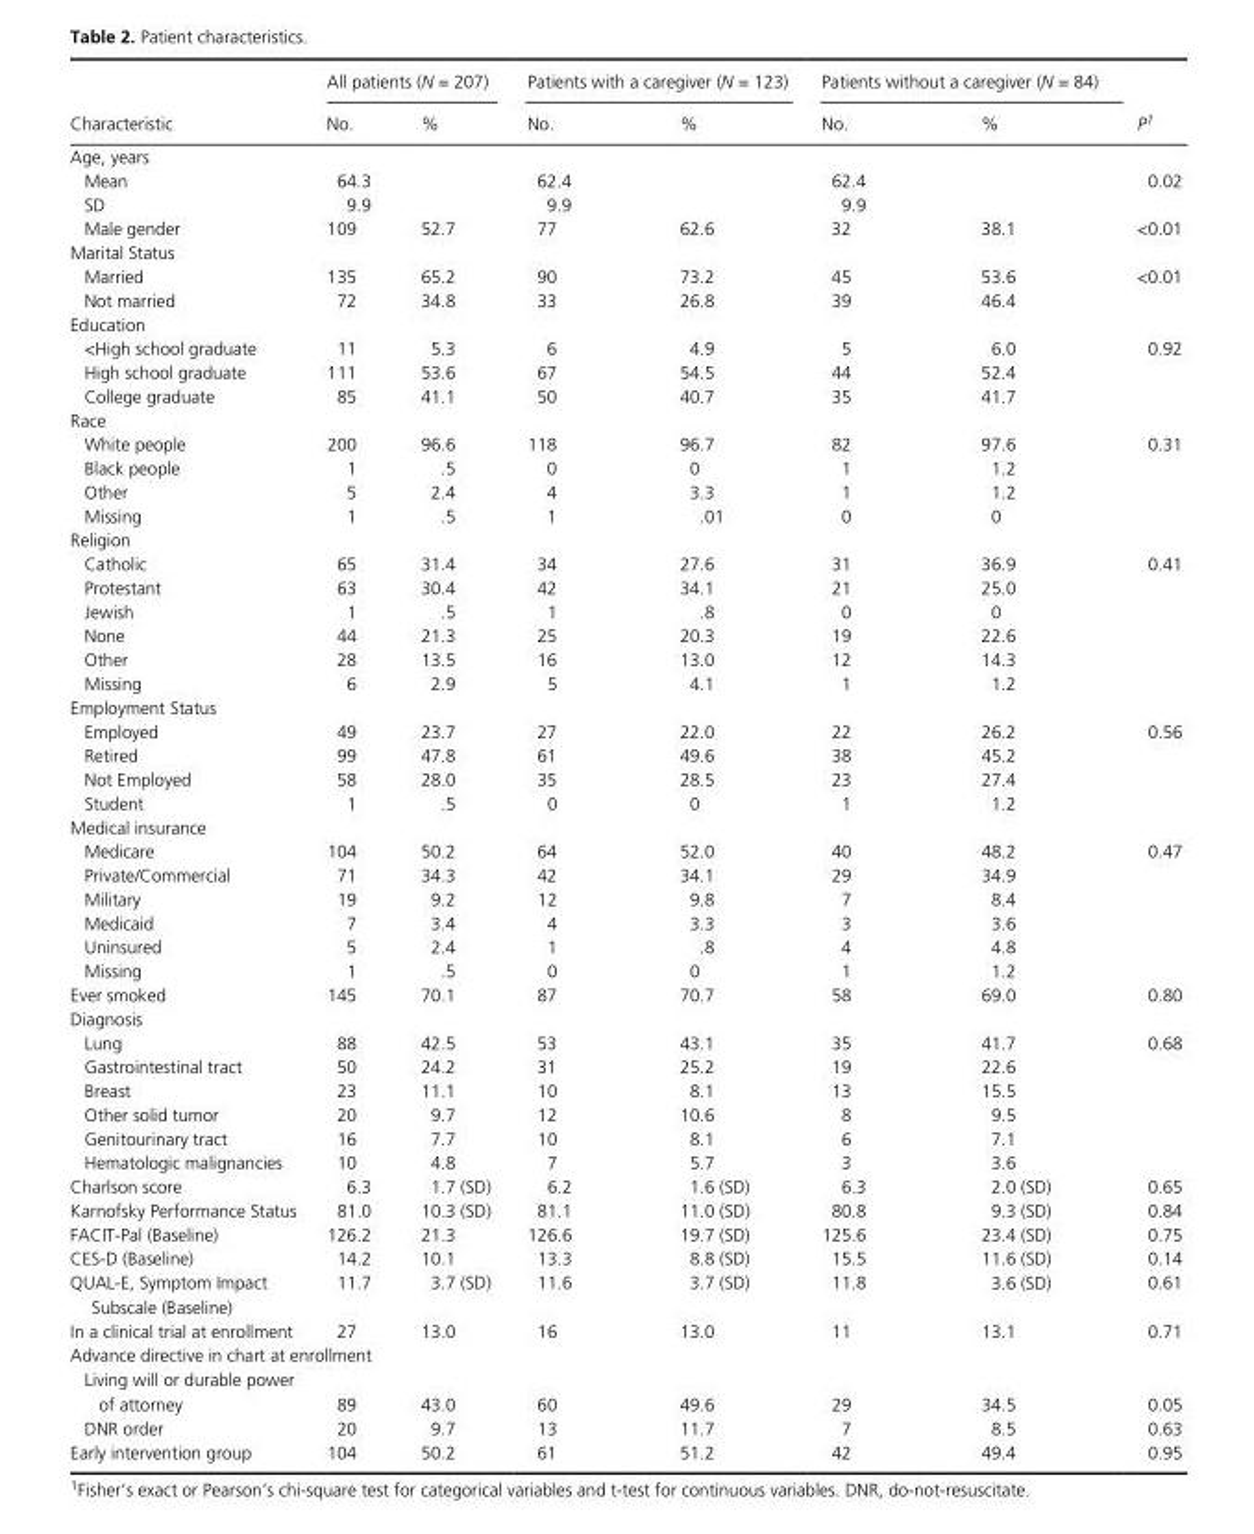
<table><thead><tr><td rowspan="2">Characteristic</td><td colspan="2">All patients (N = 207)</td><td colspan="2">Patients with a caregiver (N = 123)</td><td colspan="2">Patients without a caregiver (N = 84)</td><td rowspan="2">P1</td></tr><tr><td>No.</td><td>%</td><td>No.</td><td>%</td><td>No.</td><td>%</td></tr></thead><tbody><tr><td colspan="8">Age, years</td></tr><tr><td>Mean</td><td colspan="2">64.3</td><td colspan="2">62.4</td><td colspan="2">62.4</td><td rowspan="2">0.02</td></tr><tr><td>SD</td><td colspan="2">9.9</td><td colspan="2">9.9</td><td colspan="2">9.9</td></tr><tr><td>Male gender</td><td>109</td><td>52.7</td><td>77</td><td>62.6</td><td>32</td><td>38.1</td><td>&lt;0.01</td></tr><tr><td colspan="8">Marital Status</td></tr><tr><td>Married</td><td>135</td><td>65.2</td><td>90</td><td>73.2</td><td>45</td><td>53.6</td><td rowspan="2">&lt;0.01</td></tr><tr><td>Not married</td><td>72</td><td>34.8</td><td>33</td><td>26.8</td><td>39</td><td>46.4</td></tr><tr><td colspan="8">Education</td></tr><tr><td>&lt;High school graduate</td><td>11</td><td>5.3</td><td>6</td><td>4.9</td><td>5</td><td>6.0</td><td rowspan="3">0.92</td></tr><tr><td>High school graduate</td><td>111</td><td>53.6</td><td>67</td><td>54.5</td><td>44</td><td>52.4</td></tr><tr><td>College graduate</td><td>85</td><td>41.1</td><td>50</td><td>40.7</td><td>35</td><td>41.7</td></tr><tr><td colspan="8">Race</td></tr><tr><td>White people</td><td>200</td><td>96.6</td><td>118</td><td>96.7</td><td>82</td><td>97.6</td><td rowspan="4">0.31</td></tr><tr><td>Black people</td><td>1</td><td>.5</td><td>0</td><td>0</td><td>1</td><td>1.2</td></tr><tr><td>Other</td><td>5</td><td>2.4</td><td>4</td><td>3.3</td><td>1</td><td>1.2</td></tr><tr><td>Missing</td><td>1</td><td>.5</td><td>1</td><td>.01</td><td>0</td><td>0</td></tr><tr><td colspan="8">Religion</td></tr><tr><td>Catholic</td><td>65</td><td>31.4</td><td>34</td><td>27.6</td><td>31</td><td>36.9</td><td rowspan="6">0.41</td></tr><tr><td>Protestant</td><td>63</td><td>30.4</td><td>42</td><td>34.1</td><td>21</td><td>25.0</td></tr><tr><td>Jewish</td><td>1</td><td>.5</td><td>1</td><td>.8</td><td>0</td><td>0</td></tr><tr><td>None</td><td>44</td><td>21.3</td><td>25</td><td>20.3</td><td>19</td><td>22.6</td></tr><tr><td>Other</td><td>28</td><td>13.5</td><td>16</td><td>13.0</td><td>12</td><td>14.3</td></tr><tr><td>Missing</td><td>6</td><td>2.9</td><td>5</td><td>4.1</td><td>1</td><td>1.2</td></tr><tr><td colspan="8">Employment Status</td></tr><tr><td>Employed</td><td>49</td><td>23.7</td><td>27</td><td>22.0</td><td>22</td><td>26.2</td><td rowspan="4">0.56</td></tr><tr><td>Retired</td><td>99</td><td>47.8</td><td>61</td><td>49.6</td><td>38</td><td>45.2</td></tr><tr><td>Not Employed</td><td>58</td><td>28.0</td><td>35</td><td>28.5</td><td>23</td><td>27.4</td></tr><tr><td>Student</td><td>1</td><td>.5</td><td>0</td><td>0</td><td>1</td><td>1.2</td></tr><tr><td colspan="8">Medical insurance</td></tr><tr><td>Medicare</td><td>104</td><td>50.2</td><td>64</td><td>52.0</td><td>40</td><td>48.2</td><td rowspan="6">0.47</td></tr><tr><td>Private/Commercial</td><td>71</td><td>34.3</td><td>42</td><td>34.1</td><td>29</td><td>34.9</td></tr><tr><td>Military</td><td>19</td><td>9.2</td><td>12</td><td>9.8</td><td>7</td><td>8.4</td></tr><tr><td>Medicaid</td><td>7</td><td>3.4</td><td>4</td><td>3.3</td><td>3</td><td>3.6</td></tr><tr><td>Uninsured</td><td>5</td><td>2.4</td><td>1</td><td>.8</td><td>4</td><td>4.8</td></tr><tr><td>Missing</td><td>1</td><td>.5</td><td>0</td><td>0</td><td>1</td><td>1.2</td></tr><tr><td>Ever smoked</td><td>145</td><td>70.1</td><td>87</td><td>70.7</td><td>58</td><td>69.0</td><td>0.80</td></tr><tr><td colspan="8">Diagnosis</td></tr><tr><td>Lung</td><td>88</td><td>42.5</td><td>53</td><td>43.1</td><td>35</td><td>41.7</td><td rowspan="6">0.68</td></tr><tr><td>Gastrointestinal tract</td><td>50</td><td>24.2</td><td>31</td><td>25.2</td><td>19</td><td>22.6</td></tr><tr><td>Breast</td><td>23</td><td>11.1</td><td>10</td><td>8.1</td><td>13</td><td>15.5</td></tr><tr><td>Other solid tumor</td><td>20</td><td>9.7</td><td>12</td><td>10.6</td><td>8</td><td>9.5</td></tr><tr><td>Genitourinary tract</td><td>16</td><td>7.7</td><td>10</td><td>8.1</td><td>6</td><td>7.1</td></tr><tr><td>Hematologic malignancies</td><td>10</td><td>4.8</td><td>7</td><td>5.7</td><td>3</td><td>3.6</td></tr><tr><td>Charlson score</td><td>6.3</td><td>1.7 (SD)</td><td>6.2</td><td>1.6 (SD)</td><td>6.3</td><td>2.0 (SD)</td><td>0.65</td></tr><tr><td>Karnofsky Performance Status</td><td>81.0</td><td>10.3 (SD)</td><td>81.1</td><td>11.0 (SD)</td><td>80.8</td><td>9.3 (SD)</td><td>0.84</td></tr><tr><td>FACIT- Pal (Baseline)</td><td>126.2</td><td>21.3</td><td>126.6</td><td>19.7 (SD)</td><td>125.6</td><td>23.4 (SD)</td><td>0.75</td></tr><tr><td>CES- D (Baseline)</td><td>14.2</td><td>10.1</td><td>13.3</td><td>8.8 (SD)</td><td>15.5</td><td>11.6 (SD)</td><td>0.14</td></tr><tr><td>QUAL- E, Symptom Impact Subscale (Baseline)</td><td>11.7</td><td>3.7 (SD)</td><td>11.6</td><td>3.7 (SD)</td><td>11.8</td><td>3.6 (SD)</td><td>0.61</td></tr><tr><td>In a clinical trial at enrollment</td><td>27</td><td>13.0</td><td>16</td><td>13.0</td><td>11</td><td>13.1</td><td>0.71</td></tr><tr><td colspan="8">Advance directive in chart at enrollment</td></tr><tr><td>Living will or durable power of attorney</td><td>89</td><td>43.0</td><td>60</td><td>49.6</td><td>29</td><td>34.5</td><td>0.05</td></tr><tr><td>DNR order</td><td>20</td><td>9.7</td><td>13</td><td>11.7</td><td>7</td><td>8.5</td><td>0.63</td></tr><tr><td>Early intervention group</td><td>104</td><td>50.2</td><td>61</td><td>51.2</td><td>42</td><td>49.4</td><td>0.95</td></tr></tbody></table>